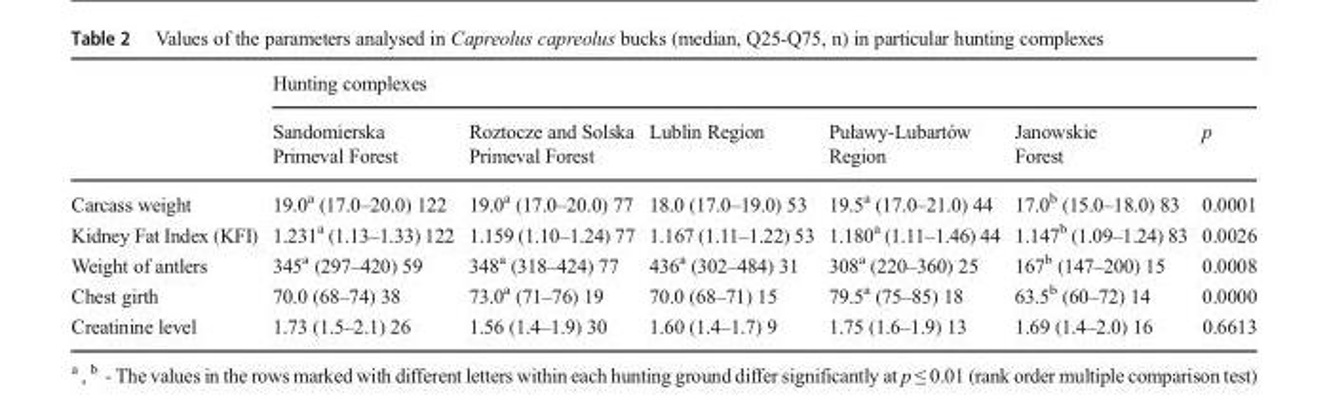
<table><thead><tr><td rowspan="2"></td><td colspan="6">Hunting complexes</td></tr><tr><td>Sandomierska Primeval Forest</td><td>Roztocze and Solska Primeval Forest</td><td>Lublin Region</td><td>Puławy-Lubartów Region</td><td>Janowskie Forest</td><td>p</td></tr></thead><tbody><tr><td>Carcass weight</td><td>19.0<sup>a</sup> (17.0–20.0) 122</td><td>19.0<sup>a</sup> (17.0–20.0) 77</td><td>18.0 (17.0–19.0) 53</td><td>19.5<sup>a</sup> (17.0–21.0) 44</td><td>17.0<sup>b</sup> (15.0–18.0) 83</td><td>0.0001</td></tr><tr><td>Kidney Fat Index (KFI)</td><td>1.231<sup>a</sup> (1.13–1.33) 122</td><td>1.159 (1.10–1.24) 77</td><td>1.167 (1.11–1.22) 53</td><td>1.180<sup>a</sup> (1.11–1.46) 44</td><td>1.147<sup>b</sup> (1.09–1.24) 83</td><td>0.0026</td></tr><tr><td>Weight of antlers</td><td>345<sup>a</sup> (297–420) 59</td><td>348<sup>a</sup> (318–424) 77</td><td>436<sup>a</sup> (302–484) 31</td><td>308<sup>a</sup> (220–360) 25</td><td>167<sup>b</sup> (147–200) 15</td><td>0.0008</td></tr><tr><td>Chest girth</td><td>70.0 (68–74) 38</td><td>73.0<sup>a</sup> (71–76) 19</td><td>70.0 (68–71) 15</td><td>79.5<sup>a</sup> (75–85) 18</td><td>63.5<sup>b</sup> (60–72) 14</td><td>0.0000</td></tr><tr><td>Creatinine level</td><td>1.73 (1.5–2.1) 26</td><td>1.56 (1.4–1.9) 30</td><td>1.60 (1.4–1.7) 9</td><td>1.75 (1.6–1.9) 13</td><td>1.69 (1.4–2.0) 16</td><td>0.6613</td></tr></tbody></table>